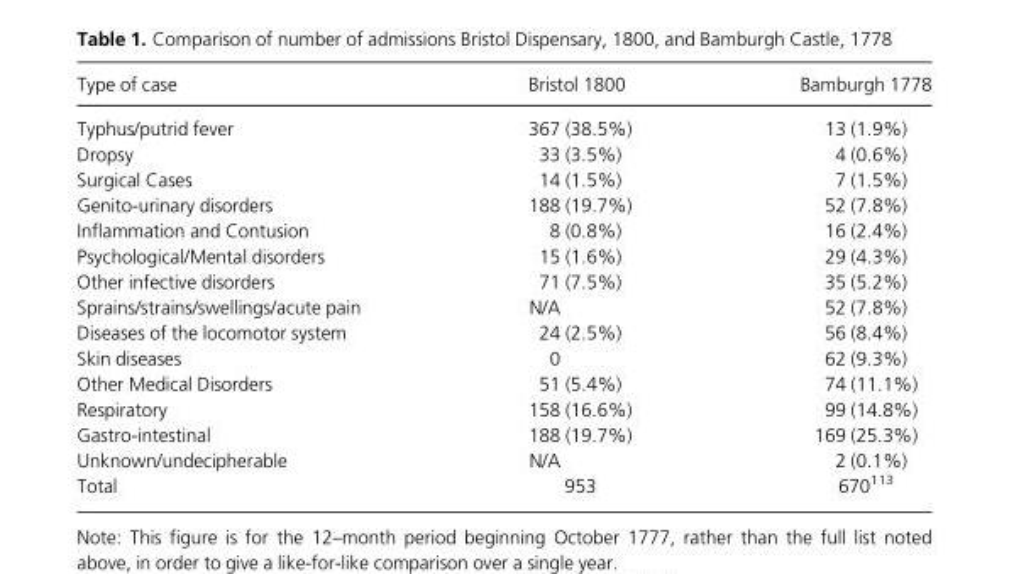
<table><thead><tr><td>Type of case</td><td>Bristol 1800</td><td>Bamburgh 1778</td></tr></thead><tbody><tr><td>Typhus/putrid fever</td><td>367 (38.5%)</td><td>13 (1.9%)</td></tr><tr><td>Dropsy</td><td>33 (3.5%)</td><td>4 (0.6%)</td></tr><tr><td>Surgical Cases</td><td>14 (1.5%)</td><td>7 (1.5%)</td></tr><tr><td>Genito-urinary disorders</td><td>188 (19.7%)</td><td>52 (7.8%)</td></tr><tr><td>Inflammation and Contusion</td><td>8 (0.8%)</td><td>16 (2.4%)</td></tr><tr><td>Psychological/Mental disorders</td><td>15 (1.6%)</td><td>29 (4.3%)</td></tr><tr><td>Other infective disorders</td><td>71 (7.5%)</td><td>35 (5.2%)</td></tr><tr><td>Sprains/strains/swellings/acute pain</td><td>N/A</td><td>52 (7.8%)</td></tr><tr><td>Diseases of the locomotor system</td><td>24 (2.5%)</td><td>56 (8.4%)</td></tr><tr><td>Skin diseases</td><td>0</td><td>62 (9.3%)</td></tr><tr><td>Other Medical Disorders</td><td>51 (5.4%)</td><td>74 (11.1%)</td></tr><tr><td>Respiratory</td><td>158 (16.6%)</td><td>99 (14.8%)</td></tr><tr><td>Gastro-intestinal</td><td>188 (19.7%)</td><td>169 (25.3%)</td></tr><tr><td>Unknown/undecipherable</td><td>N/A</td><td>2 (0.1%)</td></tr><tr><td>Total</td><td>953</td><td>670<sup>113</sup></td></tr></tbody></table>